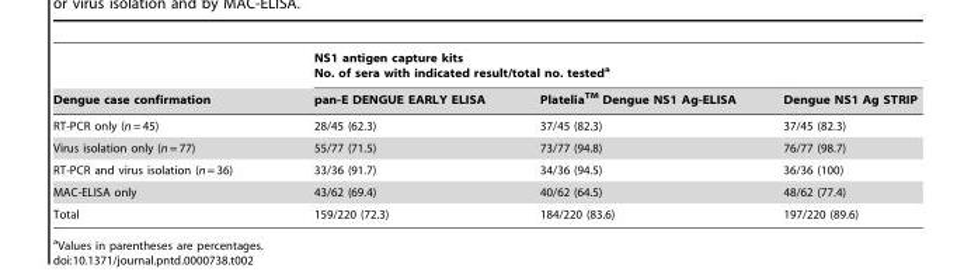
<table><thead><tr><td rowspan="2">Dengue case confirmation</td><td colspan="3">NS1 antigen capture kits No. of sera with indicated result/total no. tested<sup>a</sup></td></tr><tr><td>pan-E DENGUE EARLY ELISA</td><td>PlateliaTM Dengue NS1 Ag-ELISA</td><td>Dengue NS1 Ag STRIP</td></tr></thead><tbody><tr><td>RT-PCR only (n = 45)</td><td>28/45 (62.3)</td><td>37/45 (82.3)</td><td>37/45 (82.3)</td></tr><tr><td>Virus isolation only (n = 77)</td><td>55/77 (71.5)</td><td>73/77 (94.8)</td><td>76/77 (98.7)</td></tr><tr><td>RT-PCR and virus isolation (n = 36)</td><td>33/36 (91.7)</td><td>34/36 (94.5)</td><td>36/36 (100)</td></tr><tr><td>MAC-ELISA only</td><td>43/62 (69.4)</td><td>40/62 (64.5)</td><td>48/62 (77.4)</td></tr><tr><td>Total</td><td>159/220 (72.3)</td><td>184/220 (83.6)</td><td>197/220 (89.6)</td></tr></tbody></table>